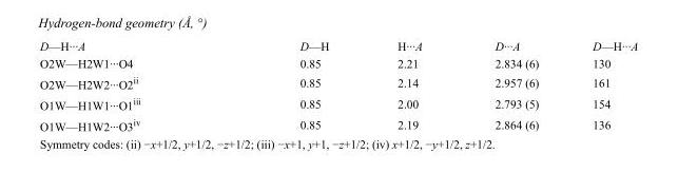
<table><tbody><tr><td>D—H···A</td><td>D—H</td><td>H···A</td><td>D···A</td><td>D—H···A</td></tr><tr><td>O2W—H2W1···O4</td><td>0.85</td><td>2.21</td><td>2.834 (6)</td><td>130</td></tr><tr><td>O2W—H2W2···O2<sup>ii</sup></td><td>0.85</td><td>2.14</td><td>2.957 (6)</td><td>161</td></tr><tr><td>O1W—H1W1···O1<sup>iii</sup></td><td>0.85</td><td>2.00</td><td>2.793 (5)</td><td>154</td></tr><tr><td>O1W—H1W2···O3<sup>iv</sup></td><td>0.85</td><td>2.19</td><td>2.864 (6)</td><td>136</td></tr></tbody></table>